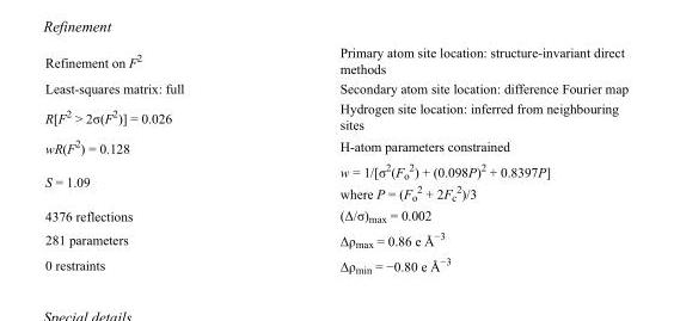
<table><tbody><tr><td>Refinement on F<sup>2</sup></td><td>Primary atom site location: structure-invariant direct methods</td></tr><tr><td>Least-squares matrix: full</td><td>Secondary atom site location: difference Fourier map</td></tr><tr><td>R[F<sup>2</sup> &gt; 2σ(F<sup>2</sup>)] = 0.026</td><td>Hydrogen site location: inferred from neighbouring sites</td></tr><tr><td>wR(F<sup>2</sup>) = 0.128</td><td>H-atom parameters constrained</td></tr><tr><td>S = 1.09</td><td>w = 1/[σ<sup>2</sup>(F<sub>o</sub> <sup>2</sup>) + (0.098P)<sup>2</sup> + 0.8397P] where P = (F<sub>o</sub> <sup>2</sup> + 2F<sub>c</sub> <sup>2</sup>)/3</td></tr><tr><td>4376 reflections</td><td>(Δ/σ)<sub>max</sub> = 0.002</td></tr><tr><td>281 parameters</td><td>Δρ<sub>max</sub> = 0.86 e Å<sup>−3</sup></td></tr><tr><td>0 restraints</td><td>Δρ<sub>min</sub> = −0.80 e Å<sup>−3</sup></td></tr></tbody></table>